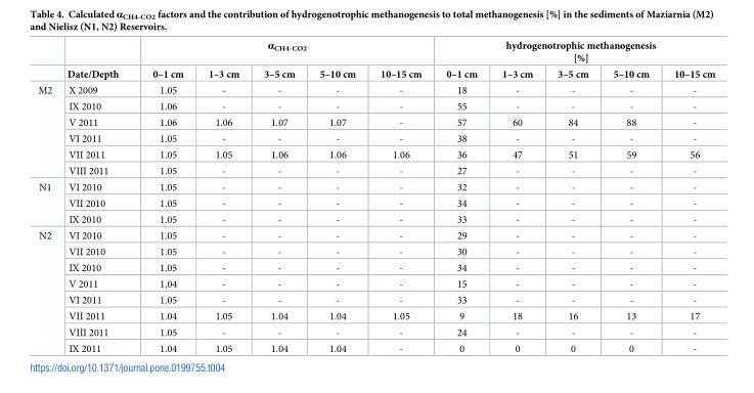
<table><thead><tr><td rowspan="2"></td><td rowspan="2">Date/Depth</td><td colspan="5">α<sub>CH4-CO2</sub></td><td colspan="5">hydrogenotrophic methanogenesis [%]</td></tr><tr><td>0–1 cm</td><td>1–3 cm</td><td>3–5 cm</td><td>5–10 cm</td><td>10–15 cm</td><td>0–1 cm</td><td>1–3 cm</td><td>3–5 cm</td><td>5–10 cm</td><td>10–15 cm</td></tr></thead><tbody><tr><td rowspan="6">M2</td><td>X 2009</td><td>1.05</td><td>-</td><td>-</td><td>-</td><td>-</td><td>18</td><td>-</td><td>-</td><td>-</td><td>-</td></tr><tr><td>IX 2010</td><td>1.06</td><td>-</td><td>-</td><td>-</td><td>-</td><td>55</td><td>-</td><td>-</td><td>-</td><td>-</td></tr><tr><td>V 2011</td><td>1.06</td><td>1.06</td><td>1.07</td><td>1.07</td><td>-</td><td>57</td><td>60</td><td>84</td><td>88</td><td>-</td></tr><tr><td>VI 2011</td><td>1.05</td><td>-</td><td>-</td><td>-</td><td>-</td><td>38</td><td>-</td><td>-</td><td>-</td><td>-</td></tr><tr><td>VII 2011</td><td>1.05</td><td>1.05</td><td>1.06</td><td>1.06</td><td>1.06</td><td>36</td><td>47</td><td>51</td><td>59</td><td>56</td></tr><tr><td>VIII 2011</td><td>1.05</td><td>-</td><td>-</td><td>-</td><td>-</td><td>27</td><td>-</td><td>-</td><td>-</td><td>-</td></tr><tr><td rowspan="3">N1</td><td>VI 2010</td><td>1.05</td><td>-</td><td>-</td><td>-</td><td>-</td><td>32</td><td>-</td><td>-</td><td>-</td><td>-</td></tr><tr><td>VII 2010</td><td>1.05</td><td>-</td><td>-</td><td>-</td><td>-</td><td>34</td><td>-</td><td>-</td><td>-</td><td>-</td></tr><tr><td>IX 2010</td><td>1.05</td><td>-</td><td>-</td><td>-</td><td>-</td><td>33</td><td>-</td><td>-</td><td>-</td><td>-</td></tr><tr><td rowspan="8">N2</td><td>VI 2010</td><td>1.05</td><td>-</td><td>-</td><td>-</td><td>-</td><td>29</td><td>-</td><td>-</td><td>-</td><td>-</td></tr><tr><td>VII 2010</td><td>1.05</td><td>-</td><td>-</td><td>-</td><td>-</td><td>30</td><td>-</td><td>-</td><td>-</td><td>-</td></tr><tr><td>IX 2010</td><td>1.05</td><td>-</td><td>-</td><td>-</td><td>-</td><td>34</td><td>-</td><td>-</td><td>-</td><td>-</td></tr><tr><td>V 2011</td><td>1,04</td><td>-</td><td>-</td><td>-</td><td>-</td><td>15</td><td>-</td><td>-</td><td>-</td><td>-</td></tr><tr><td>VI 2011</td><td>1.05</td><td>-</td><td>-</td><td>-</td><td>-</td><td>33</td><td>-</td><td>-</td><td>-</td><td>-</td></tr><tr><td>VII 2011</td><td>1.04</td><td>1.05</td><td>1.04</td><td>1.04</td><td>1.05</td><td>9</td><td>18</td><td>16</td><td>13</td><td>17</td></tr><tr><td>VIII 2011</td><td>1.05</td><td>-</td><td>-</td><td>-</td><td>-</td><td>24</td><td>-</td><td>-</td><td>-</td><td>-</td></tr><tr><td>IX 2011</td><td>1.04</td><td>1.05</td><td>1.04</td><td>1.04</td><td>-</td><td>0</td><td>0</td><td>0</td><td>0</td><td>-</td></tr></tbody></table>